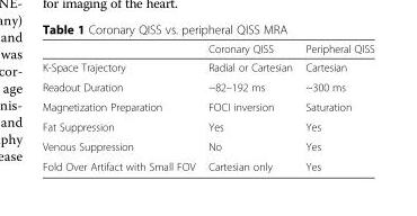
<table><thead><tr><td></td><td>Coronary QISS</td><td>Peripheral QISS</td></tr></thead><tbody><tr><td>K-Space Trajectory</td><td>Radial or Cartesian</td><td>Cartesian</td></tr><tr><td>Readout Duration</td><td>~82–192 ms</td><td>~300 ms</td></tr><tr><td>Magnetization Preparation</td><td>FOCI inversion</td><td>Saturation</td></tr><tr><td>Fat Suppression</td><td>Yes</td><td>Yes</td></tr><tr><td>Venous Suppression</td><td>No</td><td>Yes</td></tr><tr><td>Fold Over Artifact with Small FOV</td><td>Cartesian only</td><td>Yes</td></tr></tbody></table>